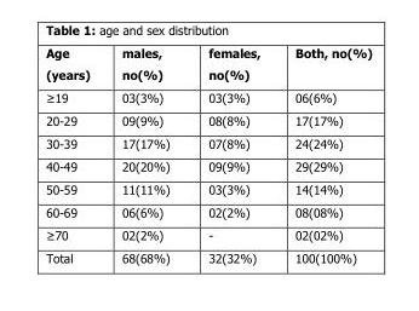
<table><thead><tr><td>Age (years)</td><td>males, no(%)</td><td>females, no(%)</td><td>Both, no(%)</td></tr></thead><tbody><tr><td>≥19</td><td>03(3%)</td><td>03(3%)</td><td>06(6%)</td></tr><tr><td>20-29</td><td>09(9%)</td><td>08(8%)</td><td>17(17%)</td></tr><tr><td>30-39</td><td>17(17%)</td><td>07(8%)</td><td>24(24%)</td></tr><tr><td>40-49</td><td>20(20%)</td><td>09(9%)</td><td>29(29%)</td></tr><tr><td>50-59</td><td>11(11%)</td><td>03(3%)</td><td>14(14%)</td></tr><tr><td>60-69</td><td>06(6%)</td><td>02(2%)</td><td>08(08%)</td></tr><tr><td>≥70</td><td>02(2%)</td><td>-</td><td>02(02%)</td></tr><tr><td>Total</td><td>68(68%)</td><td>32(32%)</td><td>100(100%)</td></tr></tbody></table>